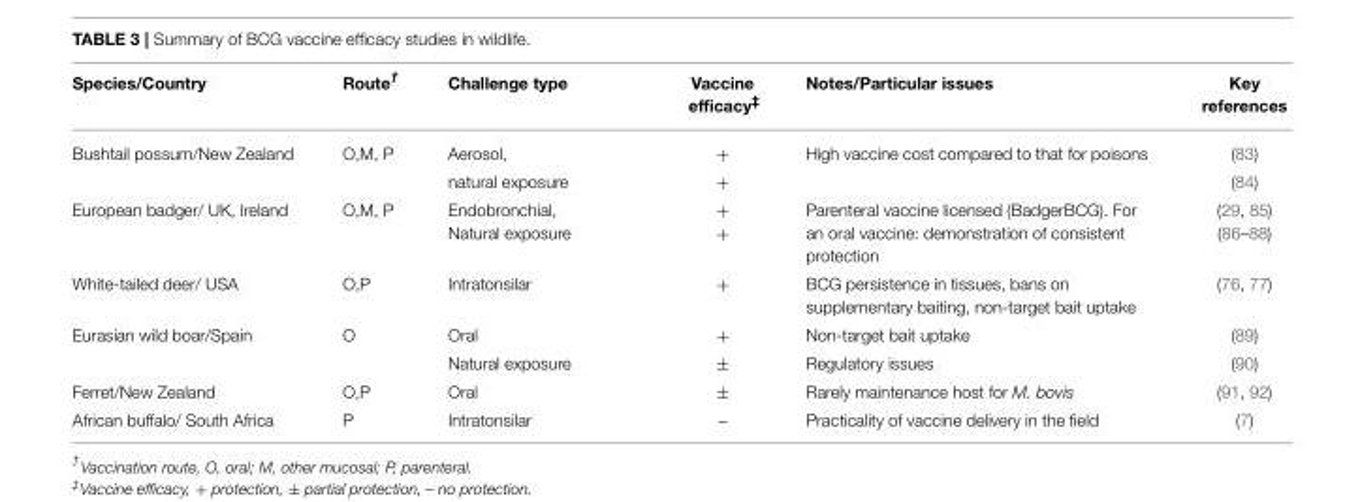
<table><thead><tr><td>Species/Country</td><td>Route<sup>†</sup></td><td>Challenge type</td><td>Vaccine efficacy<sup>‡</sup></td><td>Notes/Particular issues</td><td>Key references</td></tr></thead><tbody><tr><td rowspan="2">Bushtail possum/New Zealand</td><td>O,M, P</td><td>Aerosol,</td><td>+</td><td>High vaccine cost compared to that for poisons</td><td>(83)</td></tr><tr><td></td><td>natural exposure</td><td>+</td><td></td><td>(84)</td></tr><tr><td>European badger/ UK, Ireland</td><td>O,M, P</td><td>Endobronchial, Natural exposure</td><td>+ +</td><td>Parenteral vaccine licensed (BadgerBCG). For an oral vaccine: demonstration of consistent protection</td><td>(29, 85) (86–88)</td></tr><tr><td>White-tailed deer/ USA</td><td>O,P</td><td>Intratonsilar</td><td>+</td><td>BCG persistence in tissues, bans on supplementary baiting, non-target bait uptake</td><td>(76, 77)</td></tr><tr><td rowspan="2">Eurasian wild boar/Spain</td><td>O</td><td>Oral</td><td>+</td><td>Non-target bait uptake</td><td>(89)</td></tr><tr><td></td><td>Natural exposure</td><td>±</td><td>Regulatory issues</td><td>(90)</td></tr><tr><td>Ferret/New Zealand</td><td>O,P</td><td>Oral</td><td>±</td><td>Rarely maintenance host for M. bovis</td><td>(91, 92)</td></tr><tr><td>African buffalo/ South Africa</td><td>P</td><td>Intratonsilar</td><td>–</td><td>Practicality of vaccine delivery in the field</td><td>(7)</td></tr></tbody></table>